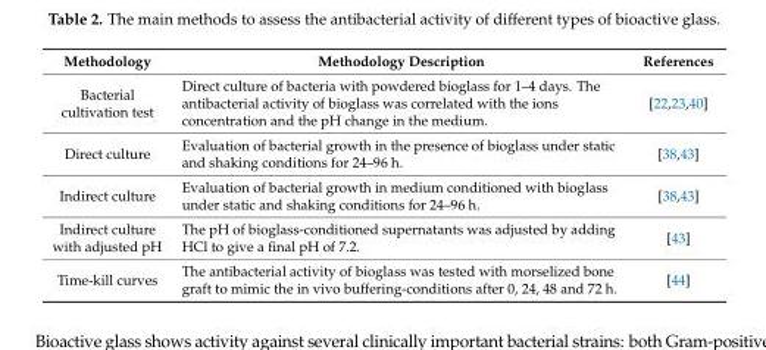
<table><thead><tr><td>Methodology</td><td>Methodology Description</td><td>References</td></tr></thead><tbody><tr><td>Bacterial cultivation test</td><td>Direct culture of bacteria with powdered bioglass for 1–4 days. The antibacterial activity of bioglass was correlated with the ions concentration and the pH change in the medium.</td><td>[22,23,40]</td></tr><tr><td>Direct culture</td><td>Evaluation of bacterial growth in the presence of bioglass under static and shaking conditions for 24–96 h.</td><td>[38,43]</td></tr><tr><td>Indirect culture</td><td>Evaluation of bacterial growth in medium conditioned with bioglass under static and shaking conditions for 24–96 h.</td><td>[38,43]</td></tr><tr><td>Indirect culture with adjusted pH</td><td>The pH of bioglass-conditioned supernatants was adjusted by adding HCl to give a final pH of 7.2.</td><td>[43]</td></tr><tr><td>Time-kill curves</td><td>The antibacterial activity of bioglass was tested with morselized bone graft to mimic the in vivo buffering-conditions after 0, 24, 48 and 72 h.</td><td>[44]</td></tr></tbody></table>